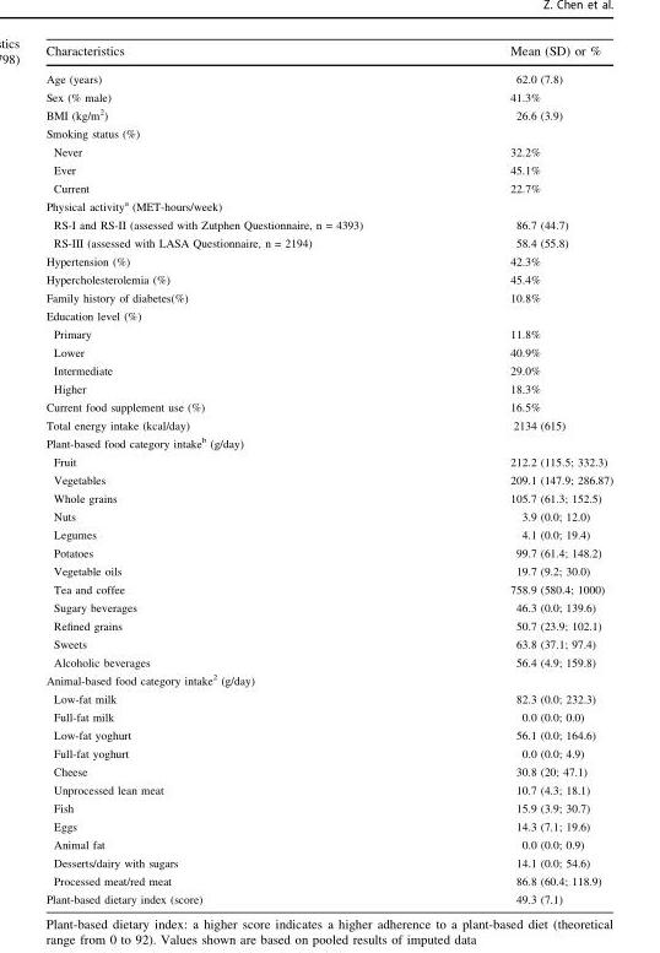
<table><thead><tr><td>Characteristics</td><td>Mean (SD) or %</td></tr></thead><tbody><tr><td>Age (years)</td><td>62.0 (7.8)</td></tr><tr><td>Sex (% male)</td><td>41.3%</td></tr><tr><td>BMI (kg/m<sup>2</sup>)</td><td>26.6 (3.9)</td></tr><tr><td colspan="2">Smoking status (%)</td></tr><tr><td>Never</td><td>32.2%</td></tr><tr><td>Ever</td><td>45.1%</td></tr><tr><td>Current</td><td>22.7%</td></tr><tr><td colspan="2">Physical activity<sup>a</sup> (MET-hours/week)</td></tr><tr><td>RS-I and RS-II (assessed with Zutphen Questionnaire, n = 4393)</td><td>86.7 (44.7)</td></tr><tr><td>RS-III (assessed with LASA Questionnaire, n = 2194)</td><td>58.4 (55.8)</td></tr><tr><td>Hypertension (%)</td><td>42.3%</td></tr><tr><td>Hypercholesterolemia (%)</td><td>45.4%</td></tr><tr><td>Family history of diabetes(%)</td><td>10.8%</td></tr><tr><td colspan="2">Education level (%)</td></tr><tr><td>Primary</td><td>11.8%</td></tr><tr><td>Lower</td><td>40.9%</td></tr><tr><td>Intermediate</td><td>29.0%</td></tr><tr><td>Higher</td><td>18.3%</td></tr><tr><td>Current food supplement use (%)</td><td>16.5%</td></tr><tr><td>Total energy intake (kcal/day)</td><td>2134 (615)</td></tr><tr><td colspan="2">Plant-based food category intake<sup>b</sup> (g/day)</td></tr><tr><td>Fruit</td><td>212.2 (115.5; 332.3)</td></tr><tr><td>Vegetables</td><td>209.1 (147.9; 286.87)</td></tr><tr><td>Whole grains</td><td>105.7 (61.3; 152.5)</td></tr><tr><td>Nuts</td><td>3.9 (0.0; 12.0)</td></tr><tr><td>Legumes</td><td>4.1 (0.0; 19.4)</td></tr><tr><td>Potatoes</td><td>99.7 (61.4; 148.2)</td></tr><tr><td>Vegetable oils</td><td>19.7 (9.2; 30.0)</td></tr><tr><td>Tea and coffee</td><td>758.9 (580.4; 1000)</td></tr><tr><td>Sugary beverages</td><td>46.3 (0.0; 139.6)</td></tr><tr><td>Refined grains</td><td>50.7 (23.9; 102.1)</td></tr><tr><td>Sweets</td><td>63.8 (37.1; 97.4)</td></tr><tr><td>Alcoholic beverages</td><td>56.4 (4.9; 159.8)</td></tr><tr><td colspan="2">Animal-based food category intake<sup>2</sup> (g/day)</td></tr><tr><td>Low-fat milk</td><td>82.3 (0.0; 232.3)</td></tr><tr><td>Full-fat milk</td><td>0.0 (0.0; 0.0)</td></tr><tr><td>Low-fat yoghurt</td><td>56.1 (0.0; 164.6)</td></tr><tr><td>Full-fat yoghurt</td><td>0.0 (0.0; 4.9)</td></tr><tr><td>Cheese</td><td>30.8 (20; 47.1)</td></tr><tr><td>Unprocessed lean meat</td><td>10.7 (4.3; 18.1)</td></tr><tr><td>Fish</td><td>15.9 (3.9; 30.7)</td></tr><tr><td>Eggs</td><td>14.3 (7.1; 19.6)</td></tr><tr><td>Animal fat</td><td>0.0 (0.0; 0.9)</td></tr><tr><td>Desserts/dairy with sugars</td><td>14.1 (0.0; 54.6)</td></tr><tr><td>Processed meat/red meat</td><td>86.8 (60.4; 118.9)</td></tr><tr><td>Plant-based dietary index (score)</td><td>49.3 (7.1)</td></tr></tbody></table>